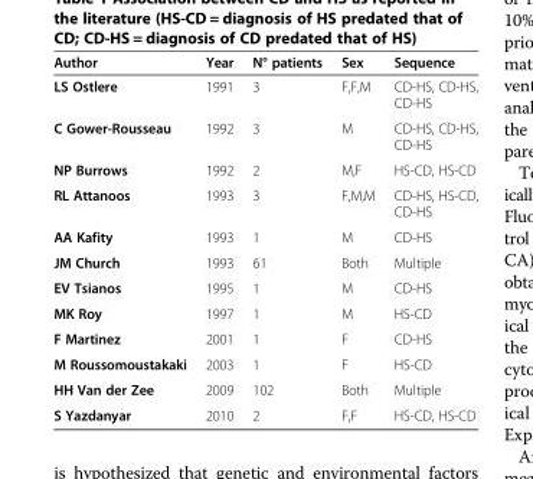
<table><thead><tr><td>Author</td><td>Year</td><td>N° patients</td><td>Sex</td><td>Sequence</td></tr></thead><tbody><tr><td>LS Ostlere</td><td>1991</td><td>3</td><td>F,F,M</td><td>CD-HS, CD-HS, CD-HS</td></tr><tr><td>C Gower-Rousseau</td><td>1992</td><td>3</td><td>M</td><td>CD-HS, CD-HS, CD-HS</td></tr><tr><td>NP Burrows</td><td>1992</td><td>2</td><td>M,F</td><td>HS-CD, HS-CD</td></tr><tr><td>RL Attanoos</td><td>1993</td><td>3</td><td>F,M,M</td><td>CD-HS, HS-CD, CD-HS</td></tr><tr><td>AA Kafity</td><td>1993</td><td>1</td><td>M</td><td>CD-HS</td></tr><tr><td>JM Church</td><td>1993</td><td>61</td><td>Both</td><td>Multiple</td></tr><tr><td>EV Tsianos</td><td>1995</td><td>1</td><td>M</td><td>CD-HS</td></tr><tr><td>MK Roy</td><td>1997</td><td>1</td><td>M</td><td>HS-CD</td></tr><tr><td>F Martinez</td><td>2001</td><td>1</td><td>F</td><td>CD-HS</td></tr><tr><td>M Roussomoustakaki</td><td>2003</td><td>1</td><td>F</td><td>HS-CD</td></tr><tr><td>HH Van der Zee</td><td>2009</td><td>102</td><td>Both</td><td>Multiple</td></tr><tr><td>S Yazdanyar</td><td>2010</td><td>2</td><td>F,F</td><td>HS-CD, HS-CD</td></tr></tbody></table>